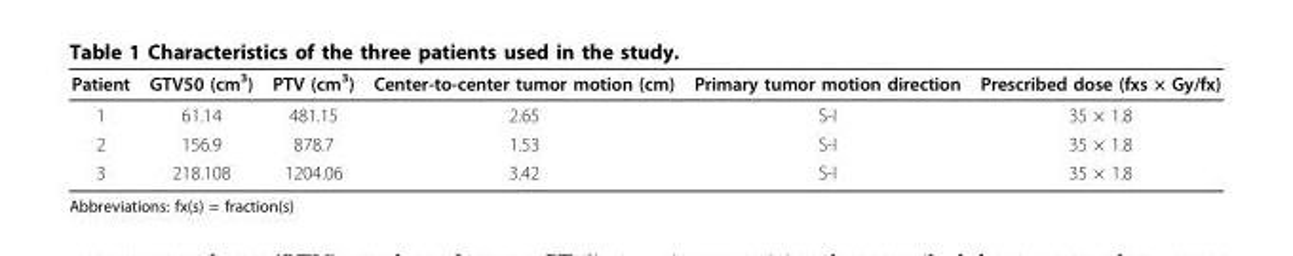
<table><thead><tr><td>Patient</td><td>GTV50 (cm<sup>3</sup>)</td><td>PTV (cm<sup>3</sup>)</td><td>Center-to-center tumor motion (cm)</td><td>Primary tumor motion direction</td><td>Prescribed dose (fxs × Gy/fx)</td></tr></thead><tbody><tr><td>1</td><td>61.14</td><td>481.15</td><td>2.65</td><td>S-I</td><td>35 × 1.8</td></tr><tr><td>2</td><td>156.9</td><td>878.7</td><td>1.53</td><td>S-I</td><td>35 × 1.8</td></tr><tr><td>3</td><td>218.108</td><td>1204.06</td><td>3.42</td><td>S-I</td><td>35 × 1.8</td></tr></tbody></table>